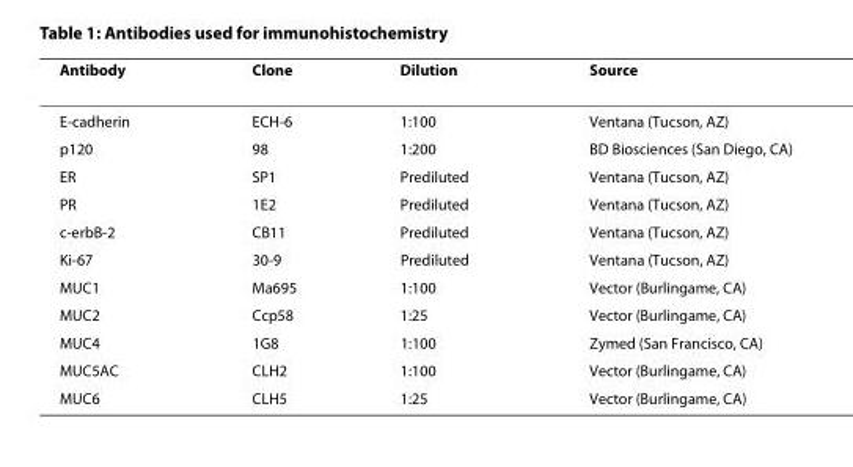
<table><thead><tr><td>Antibody</td><td>Clone</td><td>Dilution</td><td>Source</td></tr></thead><tbody><tr><td>E-cadherin</td><td>ECH-6</td><td>1:100</td><td>Ventana (Tucson, AZ)</td></tr><tr><td>p120</td><td>98</td><td>1:200</td><td>BD Biosciences (San Diego, CA)</td></tr><tr><td>ER</td><td>SP1</td><td>Prediluted</td><td>Ventana (Tucson, AZ)</td></tr><tr><td>PR</td><td>1E2</td><td>Prediluted</td><td>Ventana (Tucson, AZ)</td></tr><tr><td>c-erbB-2</td><td>CB11</td><td>Prediluted</td><td>Ventana (Tucson, AZ)</td></tr><tr><td>Ki-67</td><td>30-9</td><td>Prediluted</td><td>Ventana (Tucson, AZ)</td></tr><tr><td>MUC1</td><td>Ma695</td><td>1:100</td><td>Vector (Burlingame, CA)</td></tr><tr><td>MUC2</td><td>Ccp58</td><td>1:25</td><td>Vector (Burlingame, CA)</td></tr><tr><td>MUC4</td><td>1G8</td><td>1:100</td><td>Zymed (San Francisco, CA)</td></tr><tr><td>MUC5AC</td><td>CLH2</td><td>1:100</td><td>Vector (Burlingame, CA)</td></tr><tr><td>MUC6</td><td>CLH5</td><td>1:25</td><td>Vector (Burlingame, CA)</td></tr></tbody></table>